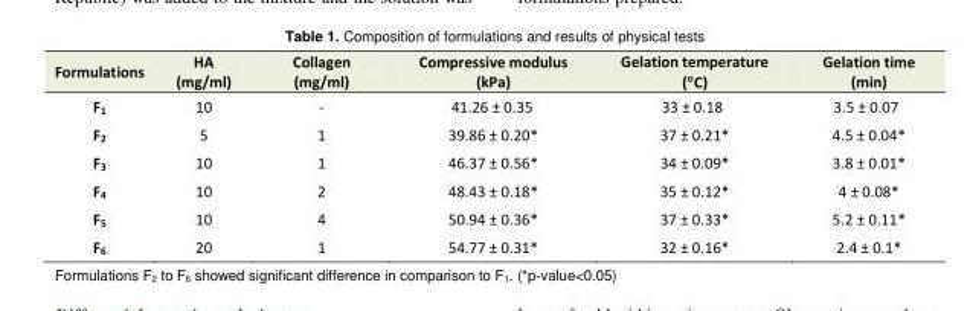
<table><tbody><tr><td>Formulations</td><td>HA (mg/ml)</td><td>Collagen (mg/ml)</td><td>Compressive modulus (kPa)</td><td>Gelation temperature (°C)</td><td>Gelation time (min)</td></tr><tr><td>F<sub>1</sub></td><td>10</td><td>-</td><td>41.26 ± 0.35</td><td>33 ± 0.18</td><td>3.5 ± 0.07</td></tr><tr><td>F<sub>2</sub></td><td>5</td><td>1</td><td>39.86 ± 0.20*</td><td>37 ± 0.21*</td><td>4.5 ± 0.04*</td></tr><tr><td>F<sub>3</sub></td><td>10</td><td>1</td><td>46.37 ± 0.56*</td><td>34 ± 0.09*</td><td>3.8 ± 0.01*</td></tr><tr><td>F<sub>4</sub></td><td>10</td><td>2</td><td>48.43 ± 0.18*</td><td>35 ± 0.12*</td><td>4 ± 0.08*</td></tr><tr><td>F<sub>5</sub></td><td>10</td><td>4</td><td>50.94 ± 0.36*</td><td>37 ± 0.33*</td><td>5.2 ± 0.11*</td></tr><tr><td>F<sub>6</sub></td><td>20</td><td>1</td><td>54.77 ± 0.31*</td><td>32 ± 0.16*</td><td>2.4 ± 0.1*</td></tr></tbody></table>